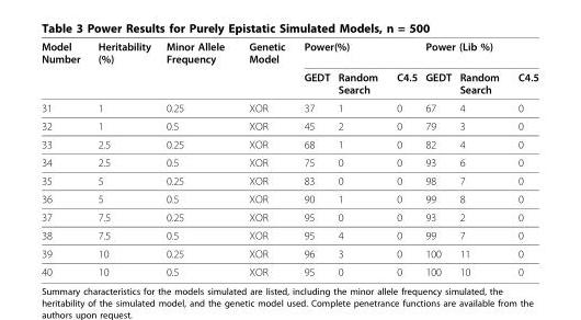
<table><thead><tr><td rowspan="2">Model Number</td><td rowspan="2">Heritability (%)</td><td rowspan="2">Minor Allele Frequency</td><td rowspan="2">Genetic Model</td><td colspan="3">Power(%)</td><td colspan="3">Power (Lib %)</td></tr><tr><td>GEDT</td><td>Random Search</td><td>C4.5</td><td>GEDT</td><td>Random Search</td><td>C4.5</td></tr></thead><tbody><tr><td>31</td><td>1</td><td>0.25</td><td>XOR</td><td>37</td><td>1</td><td>0</td><td>67</td><td>4</td><td>0</td></tr><tr><td>32</td><td>1</td><td>0.5</td><td>XOR</td><td>45</td><td>2</td><td>0</td><td>79</td><td>3</td><td>0</td></tr><tr><td>33</td><td>2.5</td><td>0.25</td><td>XOR</td><td>68</td><td>1</td><td>0</td><td>82</td><td>4</td><td>0</td></tr><tr><td>34</td><td>2.5</td><td>0.5</td><td>XOR</td><td>75</td><td>0</td><td>0</td><td>93</td><td>6</td><td>0</td></tr><tr><td>35</td><td>5</td><td>0.25</td><td>XOR</td><td>83</td><td>0</td><td>0</td><td>98</td><td>7</td><td>0</td></tr><tr><td>36</td><td>5</td><td>0.5</td><td>XOR</td><td>90</td><td>1</td><td>0</td><td>99</td><td>8</td><td>0</td></tr><tr><td>37</td><td>7.5</td><td>0.25</td><td>XOR</td><td>95</td><td>0</td><td>0</td><td>93</td><td>2</td><td>0</td></tr><tr><td>38</td><td>7.5</td><td>0.5</td><td>XOR</td><td>95</td><td>4</td><td>0</td><td>99</td><td>7</td><td>0</td></tr><tr><td>39</td><td>10</td><td>0.25</td><td>XOR</td><td>96</td><td>3</td><td>0</td><td>100</td><td>11</td><td>0</td></tr><tr><td>40</td><td>10</td><td>0.5</td><td>XOR</td><td>95</td><td>0</td><td>0</td><td>100</td><td>10</td><td>0</td></tr></tbody></table>